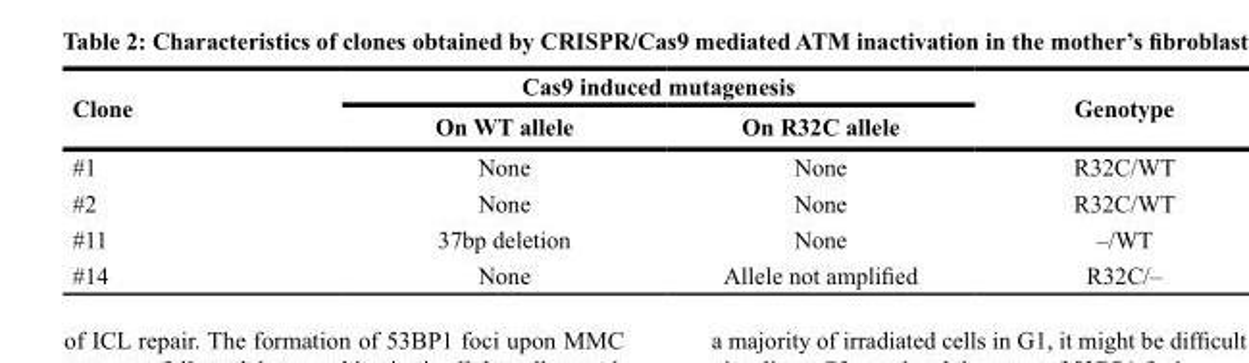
<table><thead><tr><td rowspan="2">Clone</td><td colspan="2">Cas9 induced mutagenesis</td><td rowspan="2">Genotype</td></tr><tr><td>On WT allele</td><td>On R32C allele</td></tr></thead><tbody><tr><td>#1</td><td>None</td><td>None</td><td>R32C/WT</td></tr><tr><td>#2</td><td>None</td><td>None</td><td>R32C/WT</td></tr><tr><td>#11</td><td>37bp deletion</td><td>None</td><td>–/WT</td></tr><tr><td>#14</td><td>None</td><td>Allele not amplified</td><td>R32C/–</td></tr></tbody></table>